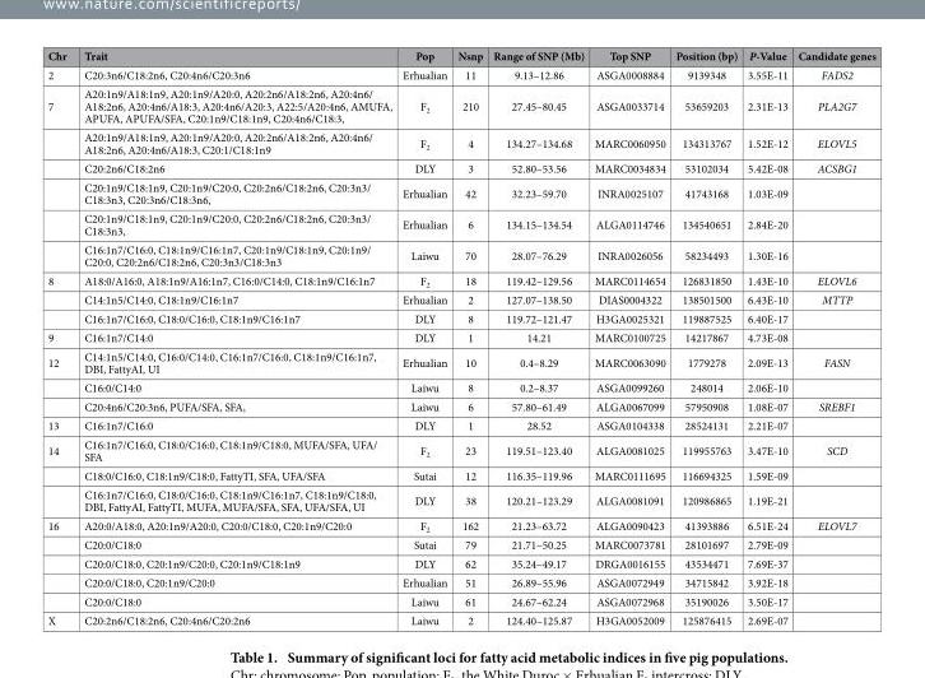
<table><thead><tr><td>Chr</td><td>Trait</td><td>Pop</td><td>Nsnp</td><td>Range of SNP (Mb)</td><td>Top SNP</td><td>Position (bp)</td><td>P-Value</td><td>Candidate genes</td></tr></thead><tbody><tr><td>2</td><td>C20:3n6/C18:2n6, C20:4n6/C20:3n6</td><td>Erhualian</td><td>11</td><td>9.13–12.86</td><td>ASGA0008884</td><td>9139348</td><td>3.55E-11</td><td>FADS2</td></tr><tr><td rowspan="6">7</td><td>A20:1n9/A18:1n9, A20:1n9/A20:0, A20:2n6/A18:2n6, A20:4n6/ A18:2n6, A20:4n6/A18:3, A20:4n6/A20:3, A22:5/A20:4n6, AMUFA, APUFA, APUFA/SFA, C20:1n9/C18:1n9, C20:4n6/C18:3,</td><td>F<sub>2</sub></td><td>210</td><td>27.45–80.45</td><td>ASGA0033714</td><td>53659203</td><td>2.31E-13</td><td>PLA2G7</td></tr><tr><td>A20:1n9/A18:1n9, A20:1n9/A20:0, A20:2n6/A18:2n6, A20:4n6/ A18:2n6, A20:4n6/A18:3, C20:1/C18:1n9</td><td>F<sub>2</sub></td><td>4</td><td>134.27–134.68</td><td>MARC0060950</td><td>134313767</td><td>1.52E-12</td><td>ELOVL5</td></tr><tr><td>C20:2n6/C18:2n6</td><td>DLY</td><td>3</td><td>52.80–53.56</td><td>MARC0034834</td><td>53102034</td><td>5.42E-08</td><td>ACSBG1</td></tr><tr><td>C20:1n9/C18:1n9, C20:1n9/C20:0, C20:2n6/C18:2n6, C20:3n3/ C18:3n3, C20:3n6/C18:3n6,</td><td>Erhualian</td><td>42</td><td>32.23–59.70</td><td>INRA0025107</td><td>41743168</td><td>1.03E-09</td><td></td></tr><tr><td>C20:1n9/C18:1n9, C20:1n9/C20:0, C20:2n6/C18:2n6, C20:3n3/ C18:3n3,</td><td>Erhualian</td><td>6</td><td>134.15–134.54</td><td>ALGA0114746</td><td>134540651</td><td>2.84E-20</td><td></td></tr><tr><td>C16:1n7/C16:0, C18:1n9/C16:1n7, C20:1n9/C18:1n9, C20:1n9/ C20:0, C20:2n6/C18:2n6, C20:3n3/C18:3n3</td><td>Laiwu</td><td>70</td><td>28.07–76.29</td><td>INRA0026056</td><td>58234493</td><td>1.30E-16</td><td></td></tr><tr><td rowspan="3">8</td><td>A18:0/A16:0, A18:1n9/A16:1n7, C16:0/C14:0, C18:1n9/C16:1n7</td><td>F<sub>2</sub></td><td>18</td><td>119.42–129.56</td><td>MARC0114654</td><td>126831850</td><td>1.43E-10</td><td>ELOVL6</td></tr><tr><td>C14:1n5/C14:0, C18:1n9/C16:1n7</td><td>Erhualian</td><td>2</td><td>127.07–138.50</td><td>DIAS0004322</td><td>138501500</td><td>6.43E-10</td><td>MTTP</td></tr><tr><td>C16:1n7/C16:0, C18:0/C16:0, C18:1n9/C16:1n7</td><td>DLY</td><td>8</td><td>119.72–121.47</td><td>H3GA0025321</td><td>119887525</td><td>6.40E-17</td><td></td></tr><tr><td>9</td><td>C16:1n7/C14:0</td><td>DLY</td><td>1</td><td>14.21</td><td>MARC0100725</td><td>14217867</td><td>4.73E-08</td><td></td></tr><tr><td rowspan="3">12</td><td>C14:1n5/C14:0, C16:0/C14:0, C16:1n7/C16:0, C18:1n9/C16:1n7, DBI, FattyAI, UI</td><td>Erhualian</td><td>10</td><td>0.4–8.29</td><td>MARC0063090</td><td>1779278</td><td>2.09E-13</td><td>FASN</td></tr><tr><td>C16:0/C14:0</td><td>Laiwu</td><td>8</td><td>0.2–8.37</td><td>ASGA0099260</td><td>248014</td><td>2.06E-10</td><td></td></tr><tr><td>C20:4n6/C20:3n6, PUFA/SFA, SFA,</td><td>Laiwu</td><td>6</td><td>57.80–61.49</td><td>ALGA0067099</td><td>57950908</td><td>1.08E-07</td><td>SREBF1</td></tr><tr><td>13</td><td>C16:1n7/C16:0</td><td>DLY</td><td>1</td><td>28.52</td><td>ASGA0104338</td><td>28524131</td><td>2.21E-07</td><td></td></tr><tr><td rowspan="3">14</td><td>C16:1n7/C16:0, C18:0/C16:0, C18:1n9/C18:0, MUFA/SFA, UFA/ SFA</td><td>F<sub>2</sub></td><td>23</td><td>119.51–123.40</td><td>ALGA0081025</td><td>119955763</td><td>3.47E-10</td><td>SCD</td></tr><tr><td>C18:0/C16:0, C18:1n9/C18:0, FattyTI, SFA, UFA/SFA</td><td>Sutai</td><td>12</td><td>116.35–119.96</td><td>MARC0111695</td><td>116694325</td><td>1.59E-09</td><td></td></tr><tr><td>C16:1n7/C16:0, C18:0/C16:0, C18:1n9/C16:1n7, C18:1n9/C18:0, DBI, FattyAI, FattyTI, MUFA, MUFA/SFA, SFA, UFA/SFA, UI</td><td>DLY</td><td>38</td><td>120.21–123.29</td><td>ALGA0081091</td><td>120986865</td><td>1.19E-21</td><td></td></tr><tr><td rowspan="5">16</td><td>A20:0/A18:0, A20:1n9/A20:0, C20:0/C18:0, C20:1n9/C20:0</td><td>F<sub>2</sub></td><td>162</td><td>21.23–63.72</td><td>ALGA0090423</td><td>41393886</td><td>6.51E-24</td><td>ELOVL7</td></tr><tr><td>C20:0/C18:0</td><td>Sutai</td><td>79</td><td>21.71–50.25</td><td>MARC0073781</td><td>28101697</td><td>2.79E-09</td><td></td></tr><tr><td>C20:0/C18:0, C20:1n9/C20:0, C20:1n9/C18:1n9</td><td>DLY</td><td>62</td><td>35.24–49.17</td><td>DRGA0016155</td><td>43534471</td><td>7.69E-37</td><td></td></tr><tr><td>C20:0/C18:0, C20:1n9/C20:0</td><td>Erhualian</td><td>51</td><td>26.89–55.96</td><td>ASGA0072949</td><td>34715842</td><td>3.92E-18</td><td></td></tr><tr><td>C20:0/C18:0</td><td>Laiwu</td><td>61</td><td>24.67–62.24</td><td>ASGA0072968</td><td>35190026</td><td>3.50E-17</td><td></td></tr><tr><td>X</td><td>C20:2n6/C18:2n6, C20:4n6/C20:2n6</td><td>Laiwu</td><td>2</td><td>124.40–125.87</td><td>H3GA0052009</td><td>125876415</td><td>2.69E-07</td><td></td></tr></tbody></table>